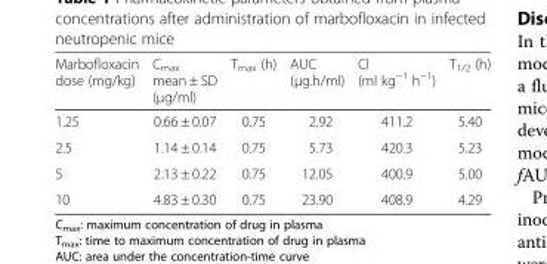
<table><thead><tr><td>Marbofloxacin dose (mg/kg)</td><td>C<sub>max</sub> mean ± SD (μg/ml)</td><td>T<sub>max</sub> (h)</td><td>AUC (μg.h/ml)</td><td>Cl (ml kg<sup>−1</sup> h<sup>−1</sup>)</td><td>T<sub>1/2</sub> (h)</td></tr></thead><tbody><tr><td>1.25</td><td>0.66 ± 0.07</td><td>0.75</td><td>2.92</td><td>411.2</td><td>5.40</td></tr><tr><td>2.5</td><td>1.14 ± 0.14</td><td>0.75</td><td>5.73</td><td>420.3</td><td>5.23</td></tr><tr><td>5</td><td>2.13 ± 0.22</td><td>0.75</td><td>12.05</td><td>400.9</td><td>5.00</td></tr><tr><td>10</td><td>4.83 ± 0.30</td><td>0.75</td><td>23.90</td><td>408.9</td><td>4.29</td></tr></tbody></table>